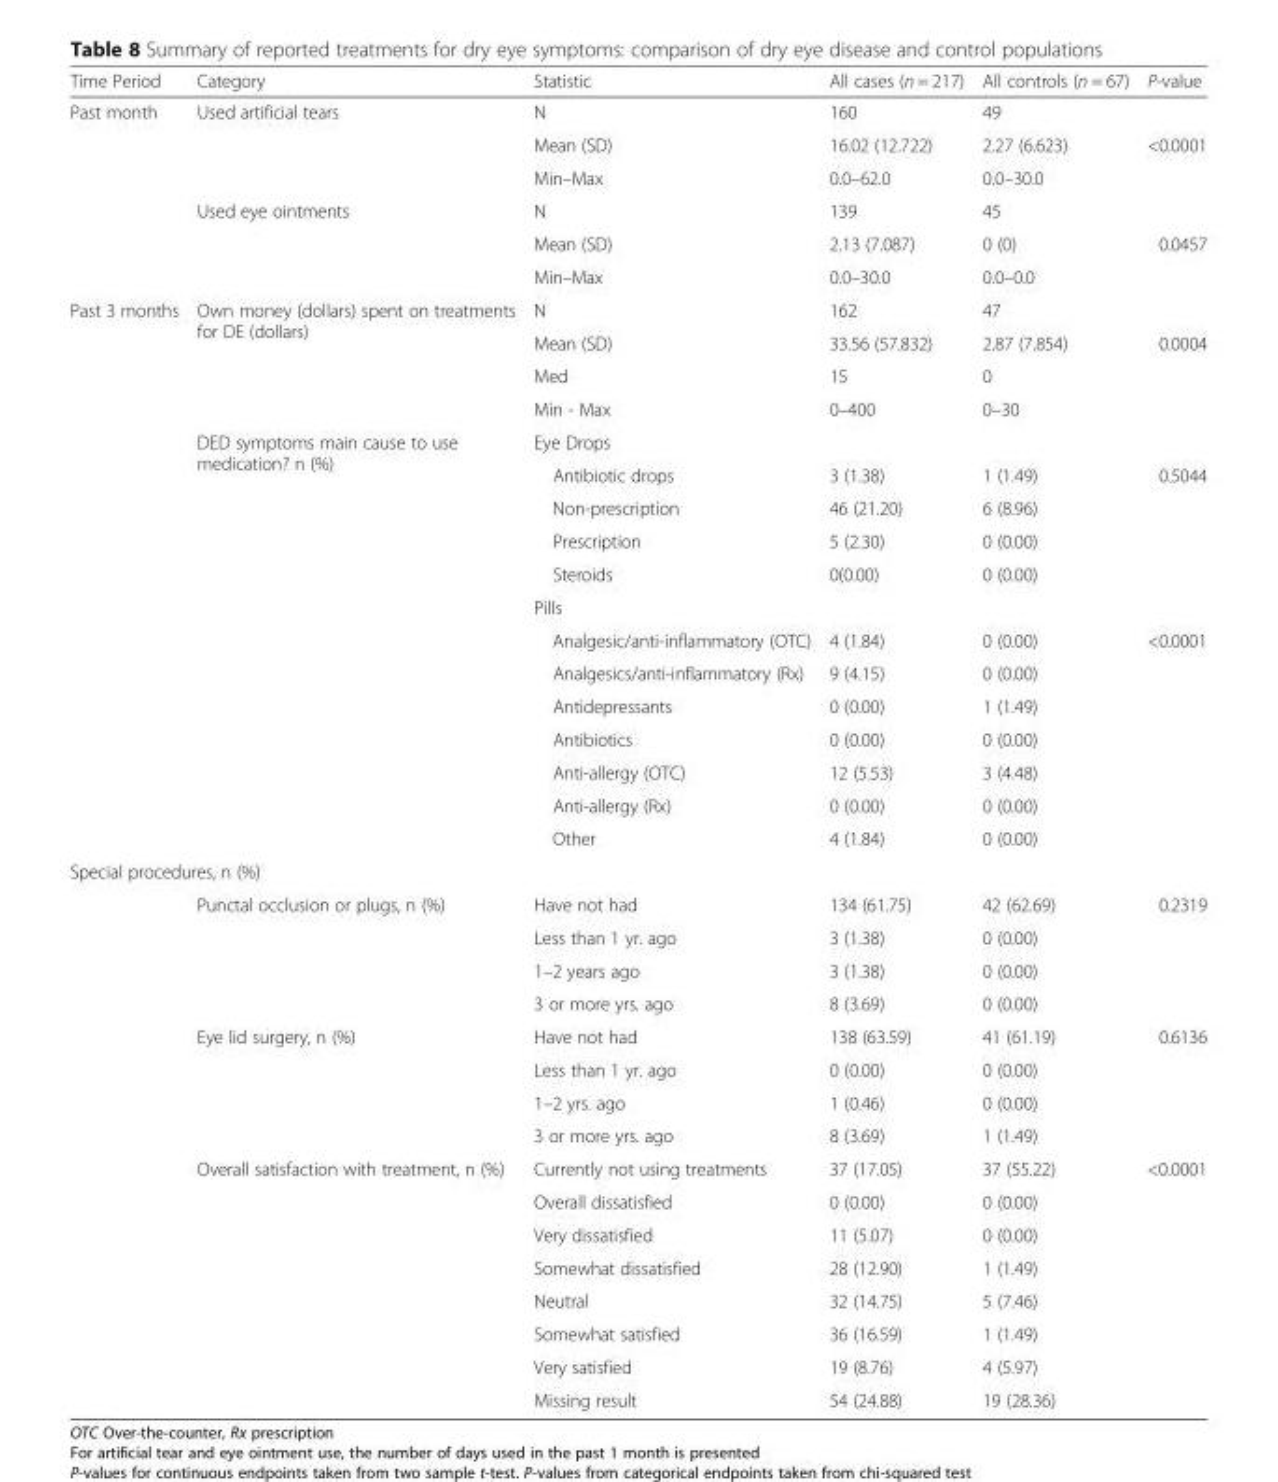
<table><thead><tr><td>Time Period</td><td>Category</td><td>Statistic</td><td>All cases (n = 217)</td><td>All controls (n = 67)</td><td>P-value</td></tr></thead><tbody><tr><td rowspan="6">Past month</td><td rowspan="3">Used artificial tears</td><td>N</td><td>160</td><td>49</td><td></td></tr><tr><td>Mean (SD)</td><td>16.02 (12.722)</td><td>2.27 (6.623)</td><td>&lt;0.0001</td></tr><tr><td>Min–Max</td><td>0.0–62.0</td><td>0.0–30.0</td><td></td></tr><tr><td rowspan="3">Used eye ointments</td><td>N</td><td>139</td><td>45</td><td></td></tr><tr><td>Mean (SD)</td><td>2.13 (7.087)</td><td>0 (0)</td><td>0.0457</td></tr><tr><td>Min–Max</td><td>0.0–30.0</td><td>0.0–0.0</td><td></td></tr><tr><td rowspan="17">Past 3 months</td><td rowspan="4">Own money (dollars) spent on treatments for DE (dollars)</td><td>N</td><td>162</td><td>47</td><td></td></tr><tr><td>Mean (SD)</td><td>33.56 (57.832)</td><td>2.87 (7.854)</td><td>0.0004</td></tr><tr><td>Med</td><td>15</td><td>0</td><td></td></tr><tr><td>Min - Max</td><td>0–400</td><td>0–30</td><td></td></tr><tr><td rowspan="13">DED symptoms main cause to use medication? n (%)</td><td>Eye Drops</td><td></td><td></td><td></td></tr><tr><td>Antibiotic drops</td><td>3 (1.38)</td><td>1 (1.49)</td><td>0.5044</td></tr><tr><td>Non-prescription</td><td>46 (21.20)</td><td>6 (8.96)</td><td></td></tr><tr><td>Prescription</td><td>5 (2.30)</td><td>0 (0.00)</td><td></td></tr><tr><td>Steroids</td><td>0(0.00)</td><td>0 (0.00)</td><td></td></tr><tr><td>Pills</td><td></td><td></td><td></td></tr><tr><td>Analgesic/anti-inflammatory (OTC)</td><td>4 (1.84)</td><td>0 (0.00)</td><td>&lt;0.0001</td></tr><tr><td>Analgesics/anti-inflammatory (Rx)</td><td>9 (4.15)</td><td>0 (0.00)</td><td></td></tr><tr><td>Antidepressants</td><td>0 (0.00)</td><td>1 (1.49)</td><td></td></tr><tr><td>Antibiotics</td><td>0 (0.00)</td><td>0 (0.00)</td><td></td></tr><tr><td>Anti-allergy (OTC)</td><td>12 (5.53)</td><td>3 (4.48)</td><td></td></tr><tr><td>Anti-allergy (Rx)</td><td>0 (0.00)</td><td>0 (0.00)</td><td></td></tr><tr><td>Other</td><td>4 (1.84)</td><td>0 (0.00)</td><td></td></tr><tr><td colspan="6">Special procedures, n (%)</td></tr><tr><td rowspan="16"></td><td rowspan="4">Punctal occlusion or plugs, n (%)</td><td>Have not had</td><td>134 (61.75)</td><td>42 (62.69)</td><td>0.2319</td></tr><tr><td>Less than 1 yr. ago</td><td>3 (1.38)</td><td>0 (0.00)</td><td></td></tr><tr><td>1–2 years ago</td><td>3 (1.38)</td><td>0 (0.00)</td><td></td></tr><tr><td>3 or more yrs. ago</td><td>8 (3.69)</td><td>0 (0.00)</td><td></td></tr><tr><td rowspan="4">Eye lid surgery, n (%)</td><td>Have not had</td><td>138 (63.59)</td><td>41 (61.19)</td><td>0.6136</td></tr><tr><td>Less than 1 yr. ago</td><td>0 (0.00)</td><td>0 (0.00)</td><td></td></tr><tr><td>1–2 yrs. ago</td><td>1 (0.46)</td><td>0 (0.00)</td><td></td></tr><tr><td>3 or more yrs. ago</td><td>8 (3.69)</td><td>1 (1.49)</td><td></td></tr><tr><td rowspan="8">Overall satisfaction with treatment, n (%)</td><td>Currently not using treatments</td><td>37 (17.05)</td><td>37 (55.22)</td><td>&lt;0.0001</td></tr><tr><td>Overall dissatisfied</td><td>0 (0.00)</td><td>0 (0.00)</td><td></td></tr><tr><td>Very dissatisfied</td><td>11 (5.07)</td><td>0 (0.00)</td><td></td></tr><tr><td>Somewhat dissatisfied</td><td>28 (12.90)</td><td>1 (1.49)</td><td></td></tr><tr><td>Neutral</td><td>32 (14.75)</td><td>5 (7.46)</td><td></td></tr><tr><td>Somewhat satisfied</td><td>36 (16.59)</td><td>1 (1.49)</td><td></td></tr><tr><td>Very satisfied</td><td>19 (8.76)</td><td>4 (5.97)</td><td></td></tr><tr><td>Missing result</td><td>54 (24.88)</td><td>19 (28.36)</td><td></td></tr></tbody></table>